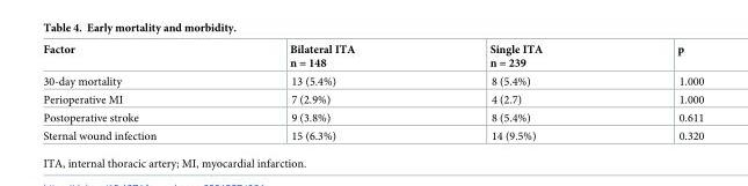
<table><thead><tr><td>Factor</td><td>Bilateral ITA n = 148</td><td>Single ITA n = 239</td><td>p</td></tr></thead><tbody><tr><td>30-day mortality</td><td>13 (5.4%)</td><td>8 (5.4%)</td><td>1.000</td></tr><tr><td>Perioperative MI</td><td>7 (2.9%)</td><td>4 (2.7)</td><td>1.000</td></tr><tr><td>Postoperative stroke</td><td>9 (3.8%)</td><td>8 (5.4%)</td><td>0.611</td></tr><tr><td>Sternal wound infection</td><td>15 (6.3%)</td><td>14 (9.5%)</td><td>0.320</td></tr></tbody></table>